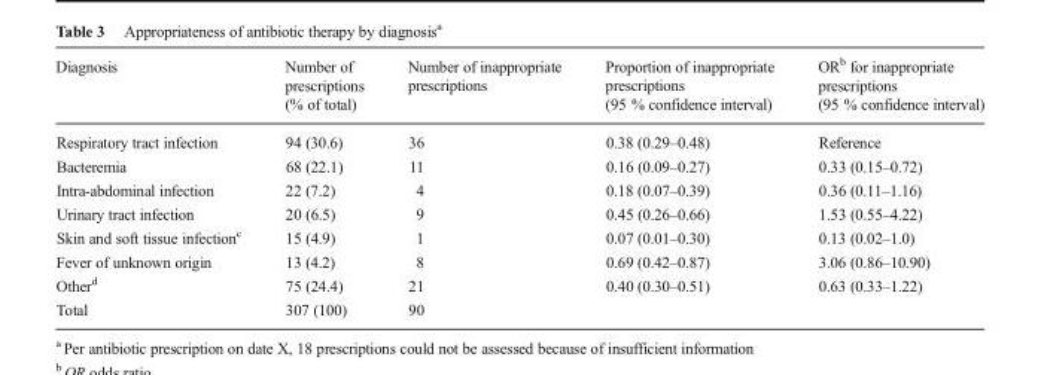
<table><thead><tr><td>Diagnosis</td><td>Number of prescriptions (% of total)</td><td>Number of inappropriate prescriptions</td><td>Proportion of inappropriate prescriptions (95 % confidence interval)</td><td>OR<sup>b</sup> for inappropriate prescriptions (95 % confidence interval)</td></tr></thead><tbody><tr><td>Respiratory tract infection</td><td>94 (30.6)</td><td>36</td><td>0.38 (0.29–0.48)</td><td>Reference</td></tr><tr><td>Bacteremia</td><td>68 (22.1)</td><td>11</td><td>0.16 (0.09–0.27)</td><td>0.33 (0.15–0.72)</td></tr><tr><td>Intra-abdominal infection</td><td>22 (7.2)</td><td>4</td><td>0.18 (0.07–0.39)</td><td>0.36 (0.11–1.16)</td></tr><tr><td>Urinary tract infection</td><td>20 (6.5)</td><td>9</td><td>0.45 (0.26–0.66)</td><td>1.53 (0.55–4.22)</td></tr><tr><td>Skin and soft tissue infection<sup>c</sup></td><td>15 (4.9)</td><td>1</td><td>0.07 (0.01–0.30)</td><td>0.13 (0.02–1.0)</td></tr><tr><td>Fever of unknown origin</td><td>13 (4.2)</td><td>8</td><td>0.69 (0.42–0.87)</td><td>3.06 (0.86–10.90)</td></tr><tr><td>Other<sup>d</sup></td><td>75 (24.4)</td><td>21</td><td>0.40 (0.30–0.51)</td><td>0.63 (0.33–1.22)</td></tr><tr><td>Total</td><td>307 (100)</td><td>90</td><td></td><td></td></tr></tbody></table>